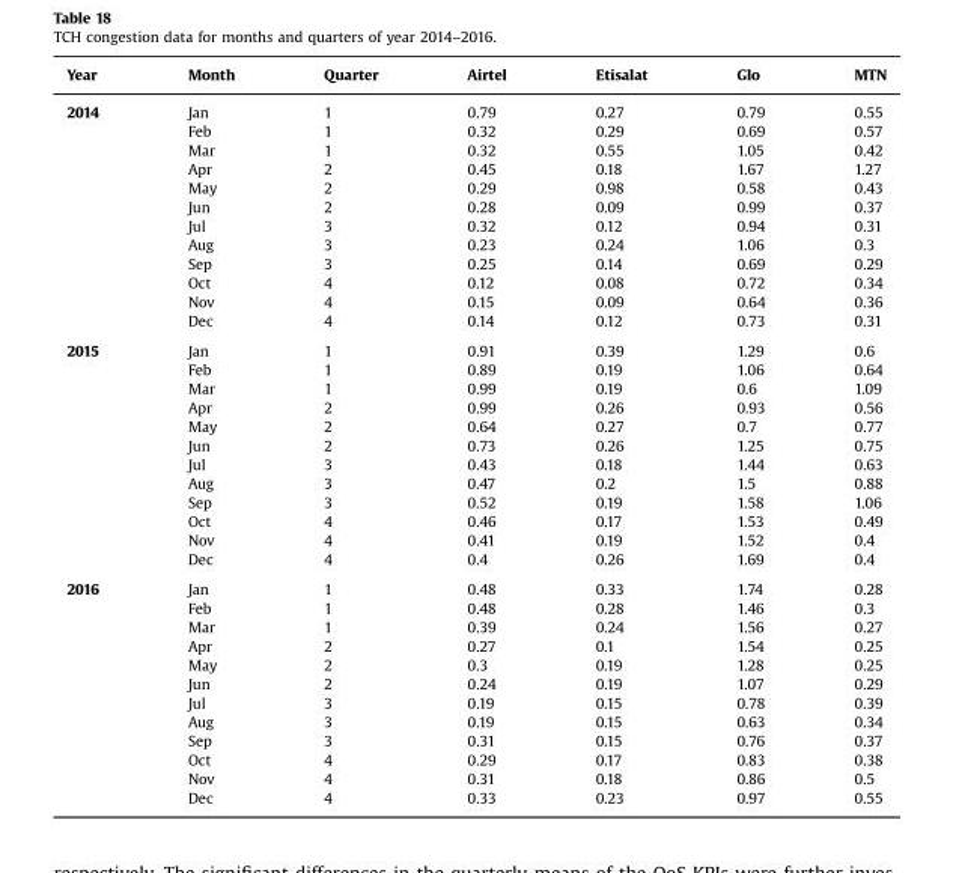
<table><thead><tr><td>Year</td><td>Month</td><td>Quarter</td><td>Airtel</td><td>Etisalat</td><td>Glo</td><td>MTN</td></tr></thead><tbody><tr><td rowspan="12">2014</td><td>Jan</td><td>1</td><td>0.79</td><td>0.27</td><td>0.79</td><td>0.55</td></tr><tr><td>Feb</td><td>1</td><td>0.32</td><td>0.29</td><td>0.69</td><td>0.57</td></tr><tr><td>Mar</td><td>1</td><td>0.32</td><td>0.55</td><td>1.05</td><td>0.42</td></tr><tr><td>Apr</td><td>2</td><td>0.45</td><td>0.18</td><td>1.67</td><td>1.27</td></tr><tr><td>May</td><td>2</td><td>0.29</td><td>0.98</td><td>0.58</td><td>0.43</td></tr><tr><td>Jun</td><td>2</td><td>0.28</td><td>0.09</td><td>0.99</td><td>0.37</td></tr><tr><td>Jul</td><td>3</td><td>0.32</td><td>0.12</td><td>0.94</td><td>0.31</td></tr><tr><td>Aug</td><td>3</td><td>0.23</td><td>0.24</td><td>1.06</td><td>0.3</td></tr><tr><td>Sep</td><td>3</td><td>0.25</td><td>0.14</td><td>0.69</td><td>0.29</td></tr><tr><td>Oct</td><td>4</td><td>0.12</td><td>0.08</td><td>0.72</td><td>0.34</td></tr><tr><td>Nov</td><td>4</td><td>0.15</td><td>0.09</td><td>0.64</td><td>0.36</td></tr><tr><td>Dec</td><td>4</td><td>0.14</td><td>0.12</td><td>0.73</td><td>0.31</td></tr><tr><td rowspan="12">2015</td><td>Jan</td><td>1</td><td>0.91</td><td>0.39</td><td>1.29</td><td>0.6</td></tr><tr><td>Feb</td><td>1</td><td>0.89</td><td>0.19</td><td>1.06</td><td>0.64</td></tr><tr><td>Mar</td><td>1</td><td>0.99</td><td>0.19</td><td>0.6</td><td>1.09</td></tr><tr><td>Apr</td><td>2</td><td>0.99</td><td>0.26</td><td>0.93</td><td>0.56</td></tr><tr><td>May</td><td>2</td><td>0.64</td><td>0.27</td><td>0.7</td><td>0.77</td></tr><tr><td>Jun</td><td>2</td><td>0.73</td><td>0.26</td><td>1.25</td><td>0.75</td></tr><tr><td>Jul</td><td>3</td><td>0.43</td><td>0.18</td><td>1.44</td><td>0.63</td></tr><tr><td>Aug</td><td>3</td><td>0.47</td><td>0.2</td><td>1.5</td><td>0.88</td></tr><tr><td>Sep</td><td>3</td><td>0.52</td><td>0.19</td><td>1.58</td><td>1.06</td></tr><tr><td>Oct</td><td>4</td><td>0.46</td><td>0.17</td><td>1.53</td><td>0.49</td></tr><tr><td>Nov</td><td>4</td><td>0.41</td><td>0.19</td><td>1.52</td><td>0.4</td></tr><tr><td>Dec</td><td>4</td><td>0.4</td><td>0.26</td><td>1.69</td><td>0.4</td></tr><tr><td rowspan="12">2016</td><td>Jan</td><td>1</td><td>0.48</td><td>0.33</td><td>1.74</td><td>0.28</td></tr><tr><td>Feb</td><td>1</td><td>0.48</td><td>0.28</td><td>1.46</td><td>0.3</td></tr><tr><td>Mar</td><td>1</td><td>0.39</td><td>0.24</td><td>1.56</td><td>0.27</td></tr><tr><td>Apr</td><td>2</td><td>0.27</td><td>0.1</td><td>1.54</td><td>0.25</td></tr><tr><td>May</td><td>2</td><td>0.3</td><td>0.19</td><td>1.28</td><td>0.25</td></tr><tr><td>Jun</td><td>2</td><td>0.24</td><td>0.19</td><td>1.07</td><td>0.29</td></tr><tr><td>Jul</td><td>3</td><td>0.19</td><td>0.15</td><td>0.78</td><td>0.39</td></tr><tr><td>Aug</td><td>3</td><td>0.19</td><td>0.15</td><td>0.63</td><td>0.34</td></tr><tr><td>Sep</td><td>3</td><td>0.31</td><td>0.15</td><td>0.76</td><td>0.37</td></tr><tr><td>Oct</td><td>4</td><td>0.29</td><td>0.17</td><td>0.83</td><td>0.38</td></tr><tr><td>Nov</td><td>4</td><td>0.31</td><td>0.18</td><td>0.86</td><td>0.5</td></tr><tr><td>Dec</td><td>4</td><td>0.33</td><td>0.23</td><td>0.97</td><td>0.55</td></tr></tbody></table>